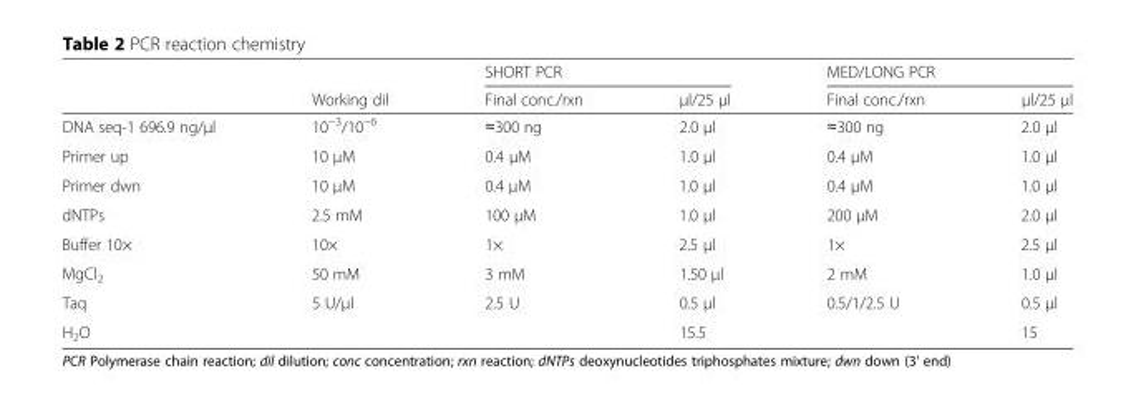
<table><thead><tr><td rowspan="2"></td><td rowspan="2">Working dil</td><td colspan="2">SHORT PCR</td><td colspan="2">MED/LONG PCR</td></tr><tr><td>Final conc./rxn</td><td>μl/25 μl</td><td>Final conc./rxn</td><td>μl/25 μl</td></tr></thead><tbody><tr><td>DNA seq-1 696.9 ng/μl</td><td>10−3/10−6</td><td>≈300 ng</td><td>2.0 μl</td><td>≈300 ng</td><td>2.0 μl</td></tr><tr><td>Primer up</td><td>10 μM</td><td>0.4 μM</td><td>1.0 μl</td><td>0.4 μM</td><td>1.0 μl</td></tr><tr><td>Primer dwn</td><td>10 μM</td><td>0.4 μM</td><td>1.0 μl</td><td>0.4 μM</td><td>1.0 μl</td></tr><tr><td>dNTPs</td><td>2.5 mM</td><td>100 μM</td><td>1.0 μl</td><td>200 μM</td><td>2.0 μl</td></tr><tr><td>Buffer 10×</td><td>10×</td><td>1×</td><td>2.5 μl</td><td>1×</td><td>2.5 μl</td></tr><tr><td>MgCl2</td><td>50 mM</td><td>3 mM</td><td>1.50 μl</td><td>2 mM</td><td>1.0 μl</td></tr><tr><td>Taq</td><td>5 U/μl</td><td>2.5 U</td><td>0.5 μl</td><td>0.5/1/2.5 U</td><td>0.5 μl</td></tr><tr><td>H2O</td><td></td><td></td><td>15.5</td><td></td><td>15</td></tr></tbody></table>